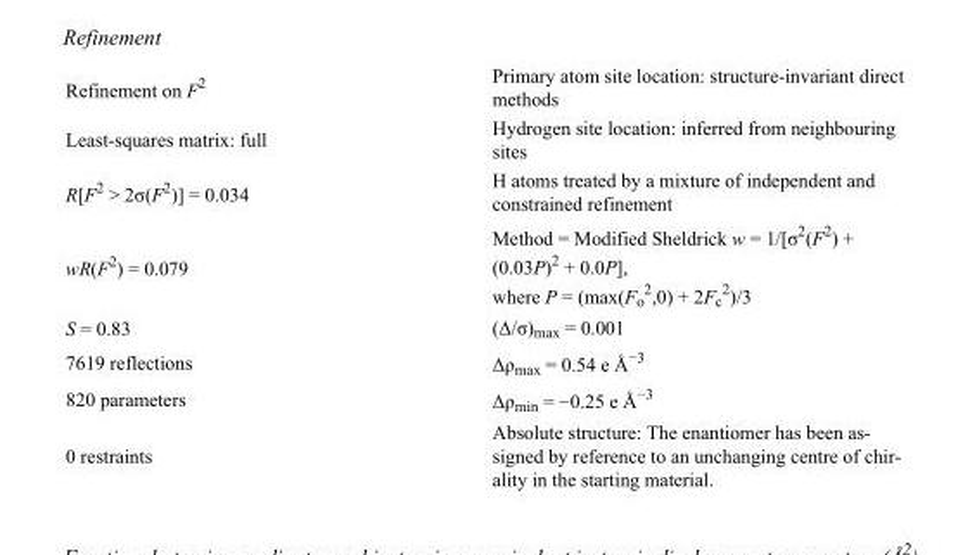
<table><tbody><tr><td>Refinement on F<sup>2</sup></td><td>Primary atom site location: structure-invariant direct methods</td></tr><tr><td>Least-squares matrix: full</td><td>Hydrogen site location: inferred from neighbouring sites</td></tr><tr><td>R[F<sup>2</sup> &gt; 2σ(F<sup>2</sup>)] = 0.034</td><td>H atoms treated by a mixture of independent and constrained refinement</td></tr><tr><td>wR(F<sup>2</sup>) = 0.079</td><td>Method = Modified Sheldrick w = 1/[σ<sup>2</sup>(F<sup>2</sup>) + (0.03P)<sup>2</sup> + 0.0P], where P = (max(F<sub>o</sub> <sup>2</sup>,0) + 2F<sub>c</sub> <sup>2</sup>)/3</td></tr><tr><td>S = 0.83</td><td>(Δ/σ)<sub>max</sub> = 0.001</td></tr><tr><td>7619 reflections</td><td>Δρ<sub>max</sub> = 0.54 e Å<sup>−3</sup></td></tr><tr><td>820 parameters</td><td>Δρ<sub>min</sub> = −0.25 e Å<sup>−3</sup></td></tr><tr><td>0 restraints</td><td>Absolute structure: The enantiomer has been as- signed by reference to an unchanging centre of chir- ality in the starting material.</td></tr></tbody></table>